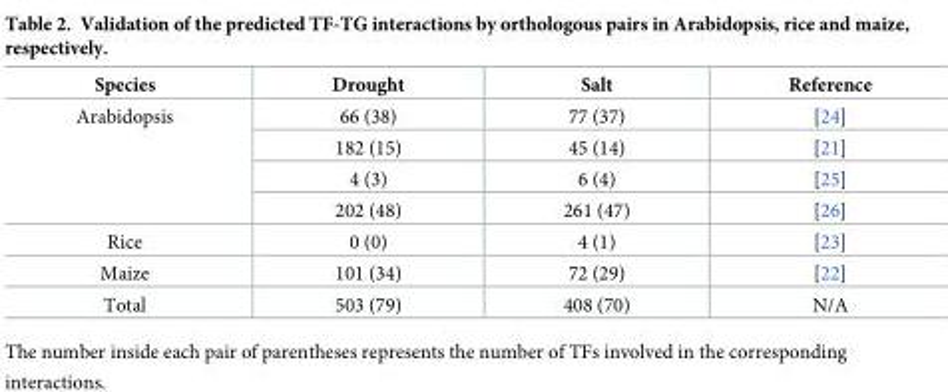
<table><thead><tr><td>Species</td><td>Drought</td><td>Salt</td><td>Reference</td></tr></thead><tbody><tr><td rowspan="4">Arabidopsis</td><td>66 (38)</td><td>77 (37)</td><td>[24]</td></tr><tr><td>182 (15)</td><td>45 (14)</td><td>[21]</td></tr><tr><td>4 (3)</td><td>6 (4)</td><td>[25]</td></tr><tr><td>202 (48)</td><td>261 (47)</td><td>[26]</td></tr><tr><td>Rice</td><td>0 (0)</td><td>4 (1)</td><td>[23]</td></tr><tr><td>Maize</td><td>101 (34)</td><td>72 (29)</td><td>[22]</td></tr><tr><td>Total</td><td>503 (79)</td><td>408 (70)</td><td>N/A</td></tr></tbody></table>